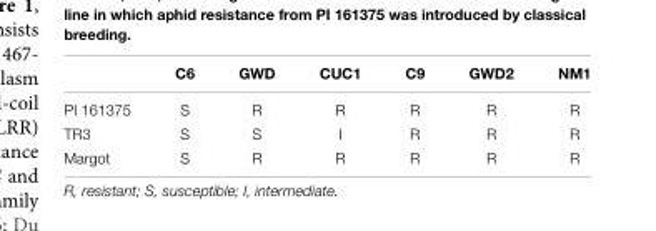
<table><thead><tr><td></td><td>C6</td><td>GWD</td><td>CUC1</td><td>C9</td><td>GWD2</td><td>NM1</td></tr></thead><tbody><tr><td>PI 161375</td><td>S</td><td>R</td><td>R</td><td>R</td><td>R</td><td>R</td></tr><tr><td>TR3</td><td>S</td><td>S</td><td>I</td><td>R</td><td>R</td><td>R</td></tr><tr><td>Margot</td><td>S</td><td>R</td><td>R</td><td>R</td><td>R</td><td>R</td></tr></tbody></table>